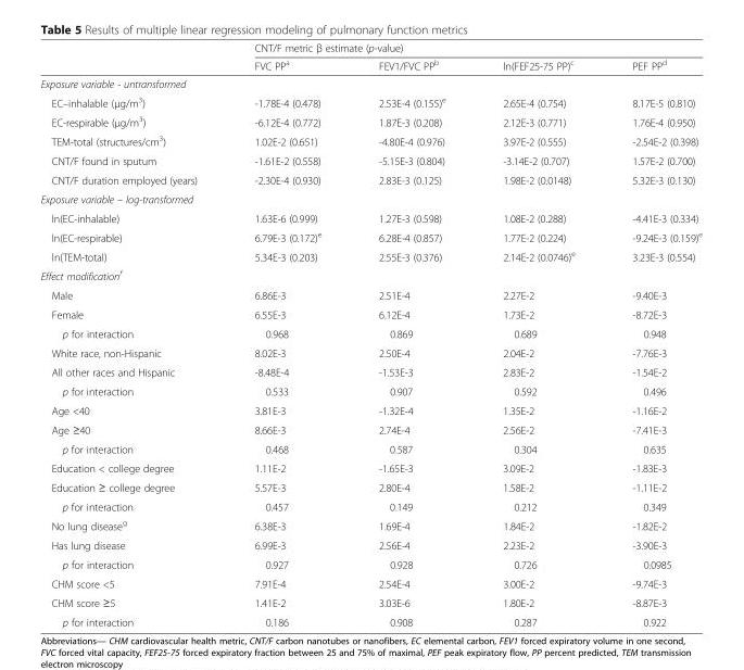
<table><thead><tr><td rowspan="2"></td><td colspan="4">CNT/F metric β estimate (p-value)</td></tr><tr><td>FVC PP<sup>a</sup></td><td>FEV1/FVC PP<sup>b</sup></td><td>ln(FEF25-75 PP)<sup>c</sup></td><td>PEF PP<sup>d</sup></td></tr></thead><tbody><tr><td colspan="5">Exposure variable - untransformed</td></tr><tr><td>EC–inhalable (μg/m<sup>3</sup>)</td><td>-1.78E-4 (0.478)</td><td>2.53E-4 (0.155)<sup>e</sup></td><td>2.65E-4 (0.754)</td><td>8.17E-5 (0.810)</td></tr><tr><td>EC-respirable (μg/m<sup>3</sup>)</td><td>-6.12E-4 (0.772)</td><td>1.87E-3 (0.208)</td><td>2.12E-3 (0.771)</td><td>1.76E-4 (0.950)</td></tr><tr><td>TEM-total (structures/cm<sup>3</sup>)</td><td>1.02E-2 (0.651)</td><td>-4.80E-4 (0.976)</td><td>3.97E-2 (0.555)</td><td>-2.54E-2 (0.398)</td></tr><tr><td>CNT/F found in sputum</td><td>-1.61E-2 (0.558)</td><td>-5.15E-3 (0.804)</td><td>-3.14E-2 (0.707)</td><td>1.57E-2 (0.700)</td></tr><tr><td>CNT/F duration employed (years)</td><td>-2.30E-4 (0.930)</td><td>2.83E-3 (0.125)</td><td>1.98E-2 (0.0148)</td><td>5.32E-3 (0.130)</td></tr><tr><td colspan="5">Exposure variable – log-transformed</td></tr><tr><td>ln(EC-inhalable)</td><td>1.63E-6 (0.999)</td><td>1.27E-3 (0.598)</td><td>1.08E-2 (0.288)</td><td>-4.41E-3 (0.334)</td></tr><tr><td>ln(EC-respirable)</td><td>6.79E-3 (0.172)<sup>e</sup></td><td>6.28E-4 (0.857)</td><td>1.77E-2 (0.224)</td><td>-9.24E-3 (0.159)<sup>e</sup></td></tr><tr><td>ln(TEM-total)</td><td>5.34E-3 (0.203)</td><td>2.55E-3 (0.376)</td><td>2.14E-2 (0.0746)<sup>e</sup></td><td>3.23E-3 (0.554)</td></tr><tr><td colspan="5">Effect modification<sup>f</sup></td></tr><tr><td>Male</td><td>6.86E-3</td><td>2.51E-4</td><td>2.27E-2</td><td>-9.40E-3</td></tr><tr><td>Female</td><td>6.55E-3</td><td>6.12E-4</td><td>1.73E-2</td><td>-8.72E-3</td></tr><tr><td>p for interaction</td><td>0.968</td><td>0.869</td><td>0.689</td><td>0.948</td></tr><tr><td>White race, non-Hispanic</td><td>8.02E-3</td><td>2.50E-4</td><td>2.04E-2</td><td>-7.76E-3</td></tr><tr><td>All other races and Hispanic</td><td>-8.48E-4</td><td>-1.53E-3</td><td>2.83E-2</td><td>-1.54E-2</td></tr><tr><td>p for interaction</td><td>0.533</td><td>0.907</td><td>0.592</td><td>0.496</td></tr><tr><td>Age &lt;40</td><td>3.81E-3</td><td>-1.32E-4</td><td>1.35E-2</td><td>-1.16E-2</td></tr><tr><td>Age ≥40</td><td>8.66E-3</td><td>2.74E-4</td><td>2.56E-2</td><td>-7.41E-3</td></tr><tr><td>p for interaction</td><td>0.468</td><td>0.587</td><td>0.304</td><td>0.635</td></tr><tr><td>Education &lt; college degree</td><td>1.11E-2</td><td>-1.65E-3</td><td>3.09E-2</td><td>-1.83E-3</td></tr><tr><td>Education ≥ college degree</td><td>5.57E-3</td><td>2.80E-4</td><td>1.58E-2</td><td>-1.11E-2</td></tr><tr><td>p for interaction</td><td>0.457</td><td>0.149</td><td>0.212</td><td>0.349</td></tr><tr><td>No lung disease<sup>g</sup></td><td>6.38E-3</td><td>1.69E-4</td><td>1.84E-2</td><td>-1.82E-2</td></tr><tr><td>Has lung disease</td><td>6.99E-3</td><td>2.56E-4</td><td>2.23E-2</td><td>-3.90E-3</td></tr><tr><td>p for interaction</td><td>0.927</td><td>0.928</td><td>0.726</td><td>0.0985</td></tr><tr><td>CHM score &lt;5</td><td>7.91E-4</td><td>2.54E-4</td><td>3.00E-2</td><td>-9.74E-3</td></tr><tr><td>CHM score ≥5</td><td>1.41E-2</td><td>3.03E-6</td><td>1.80E-2</td><td>-8.87E-3</td></tr><tr><td>p for interaction</td><td>0.186</td><td>0.908</td><td>0.287</td><td>0.922</td></tr></tbody></table>